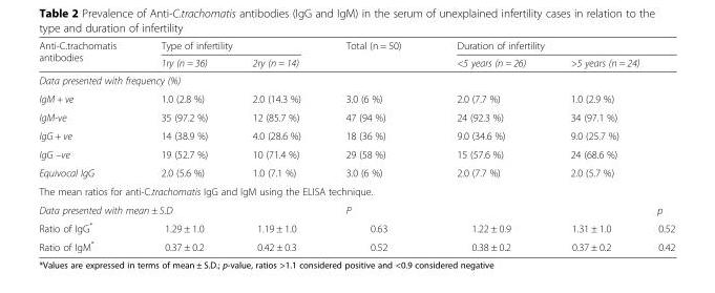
<table><thead><tr><td rowspan="2">Anti-C.trachomatis antibodies</td><td colspan="2">Type of infertility</td><td rowspan="2">Total (n = 50)</td><td colspan="3">Duration of infertility</td></tr><tr><td>1ry (n = 36)</td><td>2ry (n = 14)</td><td>&lt;5 years (n = 26)</td><td colspan="2">&gt;5 years (n = 24)</td></tr></thead><tbody><tr><td colspan="7">Data presented with frequency (%)</td></tr><tr><td>IgM + ve</td><td>1.0 (2.8 %)</td><td>2.0 (14.3 %)</td><td>3.0 (6 %)</td><td>2.0 (7.7 %)</td><td colspan="2">1.0 (2.9 %)</td></tr><tr><td>IgM-ve</td><td>35 (97.2 %)</td><td>12 (85.7 %)</td><td>47 (94 %)</td><td>24 (92.3 %)</td><td colspan="2">34 (97.1 %)</td></tr><tr><td>IgG + ve</td><td>14 (38.9 %)</td><td>4.0 (28.6 %)</td><td>18 (36 %)</td><td>9.0 (34.6 %)</td><td colspan="2">9.0 (25.7 %)</td></tr><tr><td>IgG –ve</td><td>19 (52.7 %)</td><td>10 (71.4 %)</td><td>29 (58 %)</td><td>15 (57.6 %)</td><td colspan="2">24 (68.6 %)</td></tr><tr><td>Equivocal IgG</td><td>2.0 (5.6 %)</td><td>1.0 (7.1 %)</td><td>3.0 (6 %)</td><td>2.0 (7.7 %)</td><td colspan="2">2.0 (5.7 %)</td></tr><tr><td colspan="7">The mean ratios for anti-C.trachomatis IgG and IgM using the ELISA technique.</td></tr><tr><td colspan="3">Data presented with mean ± S.D</td><td>P</td><td colspan="2"></td><td>p</td></tr><tr><td>Ratio of IgG*</td><td>1.29 ± 1.0</td><td>1.19 ± 1.0</td><td>0.63</td><td>1.22 ± 0.9</td><td>1.31 ± 1.0</td><td>0.52</td></tr><tr><td>Ratio of IgM*</td><td>0.37 ± 0.2</td><td>0.42 ± 0.3</td><td>0.52</td><td>0.38 ± 0.2</td><td>0.37 ± 0.2</td><td>0.42</td></tr></tbody></table>